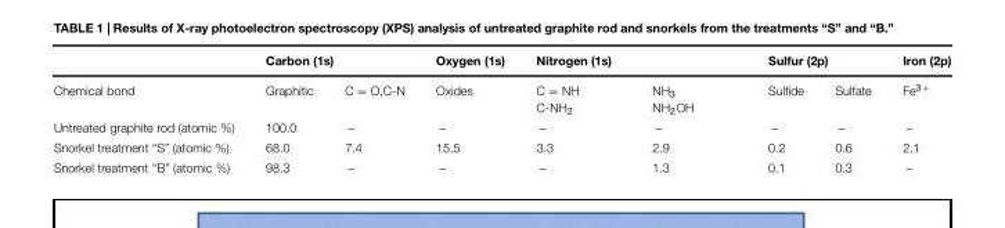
<table><thead><tr><td rowspan="2">Chemical bond</td><td colspan="2">Carbon (1s)</td><td rowspan="2">Oxygen (1s) Oxides</td><td colspan="2">Nitrogen (1s)</td><td colspan="2">Sulfur (2p)</td><td rowspan="2">Iron (2p) Fe<sup>3+</sup></td></tr><tr><td>Graphitic</td><td>C = O,C-N</td><td>C = NH C-NH<sub>2</sub></td><td>NH<sub>3</sub> NH<sub>2</sub>OH</td><td>Sulfide</td><td>Sulfate</td></tr></thead><tbody><tr><td>Untreated graphite rod (atomic %)</td><td>100.0</td><td>–</td><td>–</td><td>–</td><td>–</td><td>–</td><td>–</td><td>–</td></tr><tr><td>Snorkel treatment “S” (atomic %)</td><td>68.0</td><td>7.4</td><td>15.5</td><td>3.3</td><td>2.9</td><td>0.2</td><td>0.6</td><td>2.1</td></tr><tr><td>Snorkel treatment “B” (atomic %)</td><td>98.3</td><td>–</td><td>–</td><td>–</td><td>1.3</td><td>0.1</td><td>0.3</td><td>–</td></tr></tbody></table>